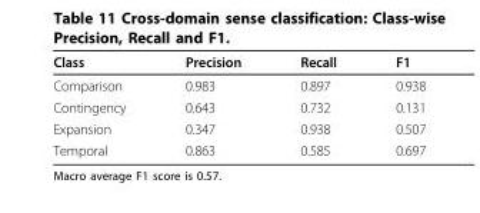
<table><thead><tr><td>Class</td><td>Precision</td><td>Recall</td><td>F1</td></tr></thead><tbody><tr><td>Comparison</td><td>0.983</td><td>0.897</td><td>0.938</td></tr><tr><td>Contingency</td><td>0.643</td><td>0.732</td><td>0.131</td></tr><tr><td>Expansion</td><td>0.347</td><td>0.938</td><td>0.507</td></tr><tr><td>Temporal</td><td>0.863</td><td>0.585</td><td>0.697</td></tr></tbody></table>